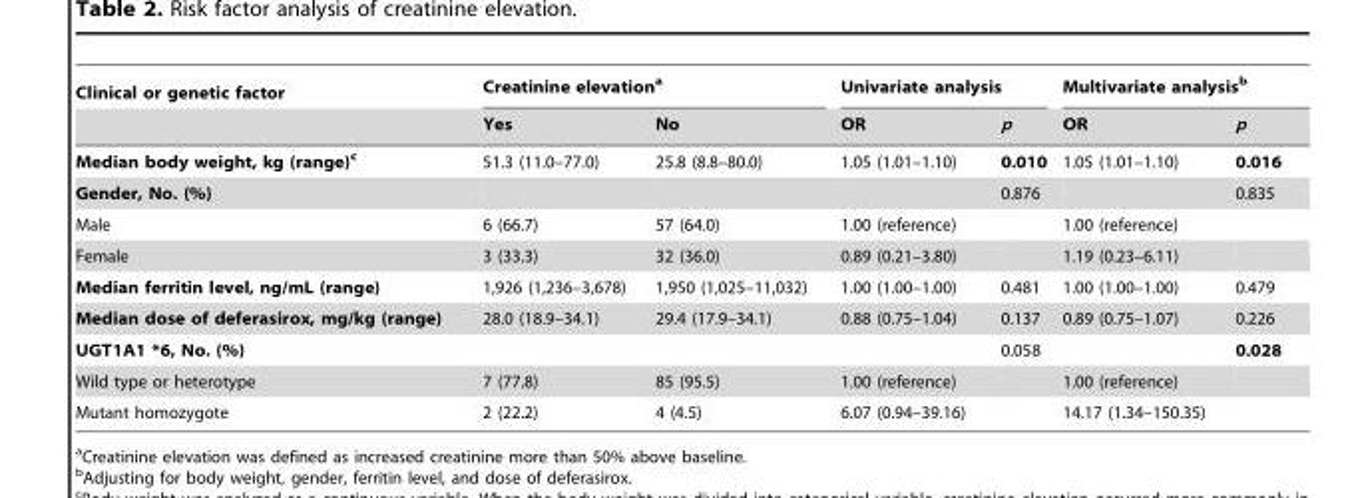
<table><thead><tr><td rowspan="2">Clinical or genetic factor</td><td colspan="2">Creatinine elevation<sup>a</sup></td><td colspan="2">Univariate analysis</td><td colspan="2">Multivariate analysis<sup>b</sup></td></tr><tr><td>Yes</td><td>No</td><td>OR</td><td>p</td><td>OR</td><td>p</td></tr></thead><tbody><tr><td>Median body weight, kg (range)c</td><td>51.3 (11.0–77.0)</td><td>25.8 (8.8–80.0)</td><td>1.05 (1.01–1.10)</td><td>0.010</td><td>1.05 (1.01–1.10)</td><td>0.016</td></tr><tr><td>Gender, No. (%)</td><td></td><td></td><td></td><td>0.876</td><td></td><td>0.835</td></tr><tr><td>Male</td><td>6 (66.7)</td><td>57 (64.0)</td><td>1.00 (reference)</td><td></td><td>1.00 (reference)</td><td></td></tr><tr><td>Female</td><td>3 (33.3)</td><td>32 (36.0)</td><td>0.89 (0.21–3.80)</td><td></td><td>1.19 (0.23–6.11)</td><td></td></tr><tr><td>Median ferritin level, ng/mL (range)</td><td>1,926 (1,236–3,678)</td><td>1,950 (1,025–11,032)</td><td>1.00 (1.00–1.00)</td><td>0.481</td><td>1.00 (1.00–1.00)</td><td>0.479</td></tr><tr><td>Median dose of deferasirox, mg/kg (range)</td><td>28.0 (18.9–34.1)</td><td>29.4 (17.9–34.1)</td><td>0.88 (0.75–1.04)</td><td>0.137</td><td>0.89 (0.75–1.07)</td><td>0.226</td></tr><tr><td>UGT1A1 *6, No. (%)</td><td></td><td></td><td></td><td>0.058</td><td></td><td>0.028</td></tr><tr><td>Wild type or heterotype</td><td>7 (77.8)</td><td>85 (95.5)</td><td>1.00 (reference)</td><td></td><td>1.00 (reference)</td><td></td></tr><tr><td>Mutant homozygote</td><td>2 (22.2)</td><td>4 (4.5)</td><td>6.07 (0.94–39.16)</td><td></td><td>14.17 (1.34–150.35)</td><td></td></tr></tbody></table>